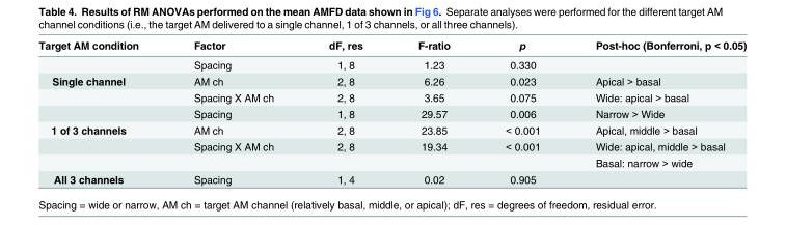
<table><thead><tr><td>Target AM condition</td><td>Factor</td><td>dF, res</td><td>F-ratio</td><td>p</td><td>Post-hoc (Bonferroni, p &lt; 0.05)</td></tr></thead><tbody><tr><td></td><td>Spacing</td><td>1, 8</td><td>1.23</td><td>0.330</td><td></td></tr><tr><td rowspan="3">Single channel</td><td>AM ch</td><td>2, 8</td><td>6.26</td><td>0.023</td><td>Apical &gt; basal</td></tr><tr><td>Spacing X AM ch</td><td>2, 8</td><td>3.65</td><td>0.075</td><td>Wide: apical &gt; basal</td></tr><tr><td>Spacing</td><td>1, 8</td><td>29.57</td><td>0.006</td><td>Narrow &gt; Wide</td></tr><tr><td rowspan="3">1 of 3 channels</td><td>AM ch</td><td>2, 8</td><td>23.85</td><td>&lt; 0.001</td><td>Apical, middle &gt; basal</td></tr><tr><td>Spacing X AM ch</td><td>2, 8</td><td>19.34</td><td>&lt; 0.001</td><td>Wide: apical, middle &gt; basal</td></tr><tr><td></td><td></td><td></td><td></td><td>Basal: narrow &gt; wide</td></tr><tr><td>All 3 channels</td><td>Spacing</td><td>1, 4</td><td>0.02</td><td>0.905</td><td></td></tr></tbody></table>